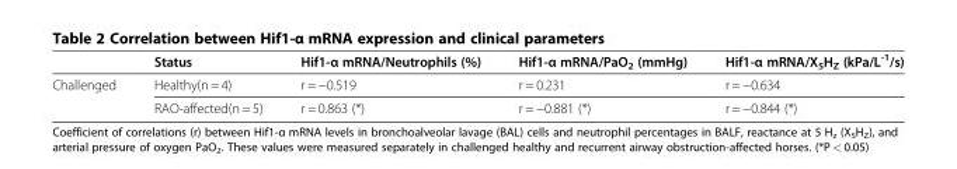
<table><thead><tr><td></td><td>Status</td><td>Hif1-α mRNA/Neutrophils (%)</td><td>Hif1-α mRNA/PaO<sub>2</sub> (mmHg)</td><td>Hif1-α mRNA/X<sub>5</sub>H<sub>Z</sub> (kPa/L<sup>-1</sup>/s)</td></tr></thead><tbody><tr><td rowspan="2">Challenged</td><td>Healthy(n = 4)</td><td>r = −0.519</td><td>r = 0.231</td><td>r = −0.634</td></tr><tr><td>RAO-affected(n = 5)</td><td>r = 0.863 (*)</td><td>r = −0.881 (*)</td><td>r = −0.844 (*)</td></tr></tbody></table>